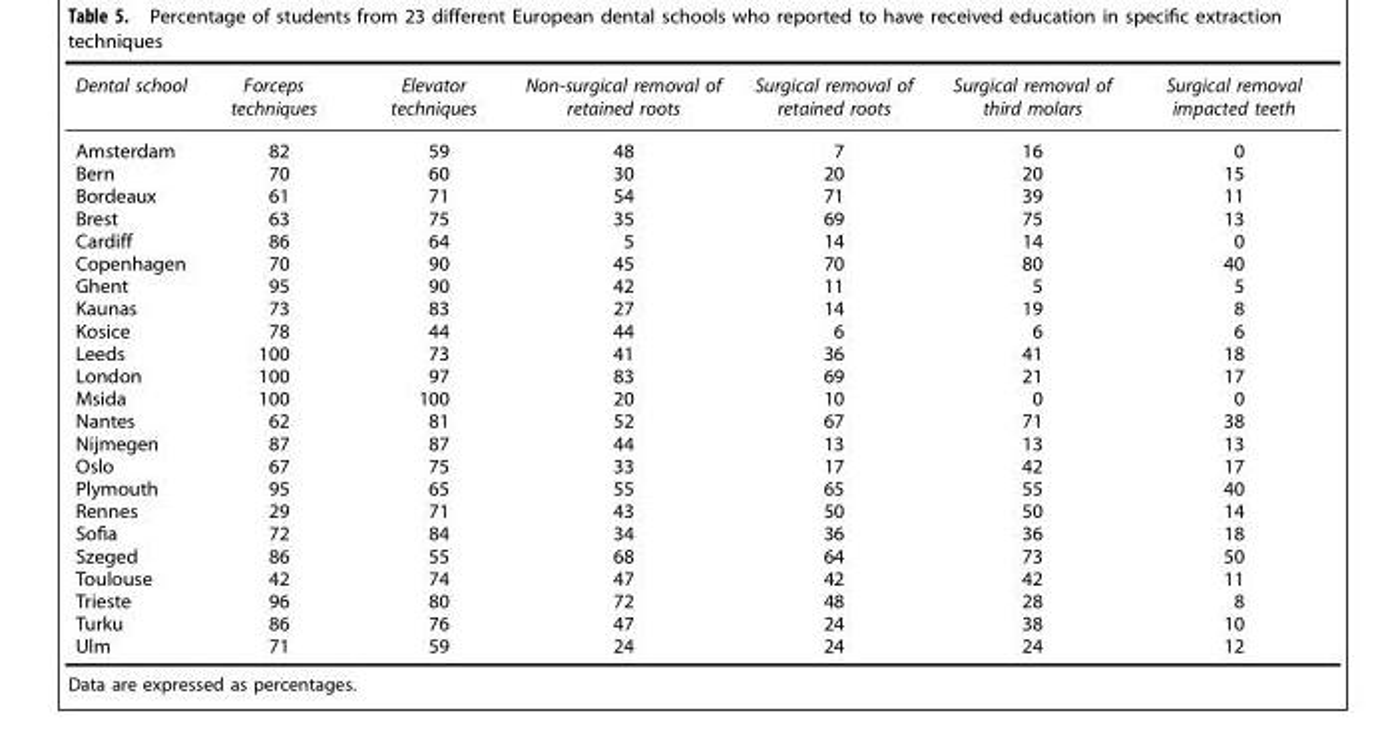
<table><thead><tr><td>Dental school</td><td>Forceps techniques</td><td>Elevator techniques</td><td>Non-surgical removal of retained roots</td><td>Surgical removal of retained roots</td><td>Surgical removal of third molars</td><td>Surgical removal impacted teeth</td></tr></thead><tbody><tr><td>Amsterdam</td><td>82</td><td>59</td><td>48</td><td>7</td><td>16</td><td>0</td></tr><tr><td>Bern</td><td>70</td><td>60</td><td>30</td><td>20</td><td>20</td><td>15</td></tr><tr><td>Bordeaux</td><td>61</td><td>71</td><td>54</td><td>71</td><td>39</td><td>11</td></tr><tr><td>Brest</td><td>63</td><td>75</td><td>35</td><td>69</td><td>75</td><td>13</td></tr><tr><td>Cardiff</td><td>86</td><td>64</td><td>5</td><td>14</td><td>14</td><td>0</td></tr><tr><td>Copenhagen</td><td>70</td><td>90</td><td>45</td><td>70</td><td>80</td><td>40</td></tr><tr><td>Ghent</td><td>95</td><td>90</td><td>42</td><td>11</td><td>5</td><td>5</td></tr><tr><td>Kaunas</td><td>73</td><td>83</td><td>27</td><td>14</td><td>19</td><td>8</td></tr><tr><td>Kosice</td><td>78</td><td>44</td><td>44</td><td>6</td><td>6</td><td>6</td></tr><tr><td>Leeds</td><td>100</td><td>73</td><td>41</td><td>36</td><td>41</td><td>18</td></tr><tr><td>London</td><td>100</td><td>97</td><td>83</td><td>69</td><td>21</td><td>17</td></tr><tr><td>Msida</td><td>100</td><td>100</td><td>20</td><td>10</td><td>0</td><td>0</td></tr><tr><td>Nantes</td><td>62</td><td>81</td><td>52</td><td>67</td><td>71</td><td>38</td></tr><tr><td>Nijmegen</td><td>87</td><td>87</td><td>44</td><td>13</td><td>13</td><td>13</td></tr><tr><td>Oslo</td><td>67</td><td>75</td><td>33</td><td>17</td><td>42</td><td>17</td></tr><tr><td>Plymouth</td><td>95</td><td>65</td><td>55</td><td>65</td><td>55</td><td>40</td></tr><tr><td>Rennes</td><td>29</td><td>71</td><td>43</td><td>50</td><td>50</td><td>14</td></tr><tr><td>Sofia</td><td>72</td><td>84</td><td>34</td><td>36</td><td>36</td><td>18</td></tr><tr><td>Szeged</td><td>86</td><td>55</td><td>68</td><td>64</td><td>73</td><td>50</td></tr><tr><td>Toulouse</td><td>42</td><td>74</td><td>47</td><td>42</td><td>42</td><td>11</td></tr><tr><td>Trieste</td><td>96</td><td>80</td><td>72</td><td>48</td><td>28</td><td>8</td></tr><tr><td>Turku</td><td>86</td><td>76</td><td>47</td><td>24</td><td>38</td><td>10</td></tr><tr><td>Ulm</td><td>71</td><td>59</td><td>24</td><td>24</td><td>24</td><td>12</td></tr></tbody></table>